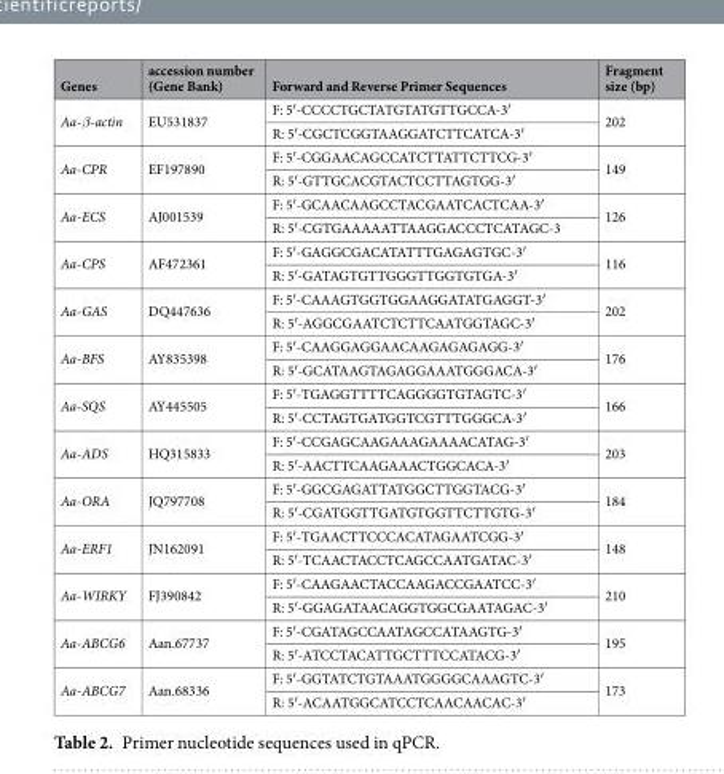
<table><thead><tr><td>Genes</td><td>accession number (Gene Bank)</td><td>Forward and Reverse Primer Sequences</td><td>Fragment size (bp)</td></tr></thead><tbody><tr><td rowspan="2">Aa-β-actin</td><td rowspan="2">EU531837</td><td>F: 5′-CCCCTGCTATGTATGTTGCCA-3′</td><td rowspan="2">202</td></tr><tr><td>R: 5′-CGCTCGGTAAGGATCTTCATCA-3′</td></tr><tr><td rowspan="2">Aa-CPR</td><td rowspan="2">EF197890</td><td>F: 5′-CGGAACAGCCATCTTATTCTTCG-3′</td><td rowspan="2">149</td></tr><tr><td>R: 5′-GTTGCACGTACTCCTTAGTGG-3′</td></tr><tr><td rowspan="2">Aa-ECS</td><td rowspan="2">AJ001539</td><td>F: 5′-GCAACAAGCCTACGAATCACTCAA-3′</td><td rowspan="2">126</td></tr><tr><td>R: 5′-CGTGAAAAATTAAGGACCCTCATAGC-3</td></tr><tr><td rowspan="2">Aa-CPS</td><td rowspan="2">AF472361</td><td>F: 5′-GAGGCGACATATTTGAGAGTGC-3′</td><td rowspan="2">116</td></tr><tr><td>R: 5′-GATAGTGTTGGGTTGGTGTGA-3′</td></tr><tr><td rowspan="2">Aa-GAS</td><td rowspan="2">DQ447636</td><td>F: 5′-CAAAGTGGTGGAAGGATATGAGGT-3′</td><td rowspan="2">202</td></tr><tr><td>R: 5′-AGGCGAATCTCTTCAATGGTAGC-3′</td></tr><tr><td rowspan="2">Aa-BFS</td><td rowspan="2">AY835398</td><td>F: 5′-CAAGGAGGAACAAGAGAGAGG-3′</td><td rowspan="2">176</td></tr><tr><td>R: 5′-GCATAAGTAGAGGAAATGGGACA-3′</td></tr><tr><td rowspan="2">Aa-SQS</td><td rowspan="2">AY445505</td><td>F: 5′-TGAGGTTTTCAGGGGTGTAGTC-3′</td><td rowspan="2">166</td></tr><tr><td>R: 5′-CCTAGTGATGGTCGTTTGGGCA-3′</td></tr><tr><td rowspan="2">Aa-ADS</td><td rowspan="2">HQ315833</td><td>F: 5′-CCGAGCAAGAAAGAAAACATAG-3′</td><td rowspan="2">203</td></tr><tr><td>R: 5′-AACTTCAAGAAACTGGCACA-3′</td></tr><tr><td rowspan="2">Aa-ORA</td><td rowspan="2">JQ797708</td><td>F: 5′-GGCGAGATTATGGCTTGGTACG-3′</td><td rowspan="2">184</td></tr><tr><td>R: 5′-CGATGGTTGATGTGGTTCTTGTG-3′</td></tr><tr><td rowspan="2">Aa-ERF1</td><td rowspan="2">JN162091</td><td>F: 5′-TGAACTTCCCACATAGAATCGG-3′</td><td rowspan="2">148</td></tr><tr><td>R: 5′-TCAACTACCTCAGCCAATGATAC-3′</td></tr><tr><td rowspan="2">Aa-WIRKY</td><td rowspan="2">FJ390842</td><td>F: 5′-CAAGAACTACCAAGACCGAATCC-3′</td><td rowspan="2">210</td></tr><tr><td>R: 5′-GGAGATAACAGGTGGCGAATAGAC-3′</td></tr><tr><td rowspan="2">Aa-ABCG6</td><td rowspan="2">Aan.67737</td><td>F: 5′-CGATAGCCAATAGCCATAAGTG-3′</td><td rowspan="2">195</td></tr><tr><td>R: 5′-ATCCTACATTGCTTTCCATACG-3′</td></tr><tr><td rowspan="2">Aa-ABCG7</td><td rowspan="2">Aan.68336</td><td>F: 5′-GGTATCTGTAAATGGGGCAAAGTC-3′</td><td rowspan="2">173</td></tr><tr><td>R: 5′-ACAATGGCATCCTCAACAACAC-3′</td></tr></tbody></table>